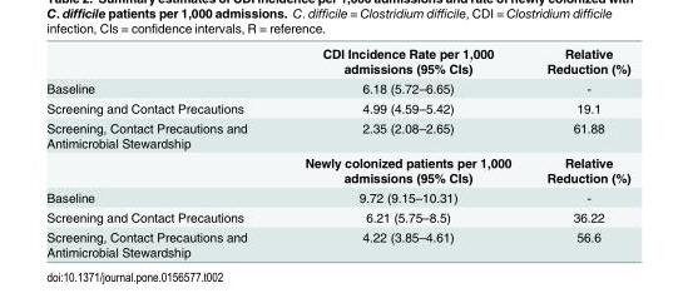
<table><thead><tr><td></td><td>CDI Incidence Rate per 1,000 admissions (95% CIs)</td><td>Relative Reduction (%)</td></tr></thead><tbody><tr><td>Baseline</td><td>6.18 (5.72–6.65)</td><td>-</td></tr><tr><td>Screening and Contact Precautions</td><td>4.99 (4.59–5.42)</td><td>19.1</td></tr><tr><td rowspan="2">Screening, Contact Precautions and Antimicrobial Stewardship</td><td>2.35 (2.08–2.65)</td><td>61.88</td></tr><tr><td>Newly colonized patients per 1,000 admissions (95% CIs)</td><td>Relative Reduction (%)</td></tr><tr><td>Baseline</td><td>9.72 (9.15–10.31)</td><td>-</td></tr><tr><td>Screening and Contact Precautions</td><td>6.21 (5.75–8.5)</td><td>36.22</td></tr><tr><td>Screening, Contact Precautions and Antimicrobial Stewardship</td><td>4.22 (3.85–4.61)</td><td>56.6</td></tr></tbody></table>